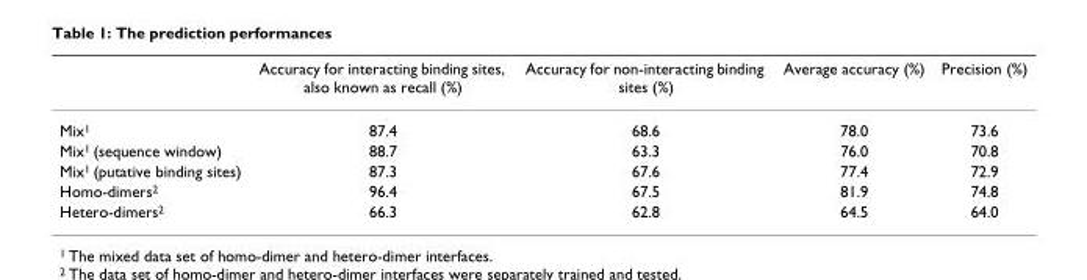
<table><thead><tr><td></td><td>Accuracy for interacting binding sites, also known as recall (%)</td><td>Accuracy for non-interacting binding sites (%)</td><td>Average accuracy (%)</td><td>Precision (%)</td></tr></thead><tbody><tr><td>Mix<sup>1</sup></td><td>87.4</td><td>68.6</td><td>78.0</td><td>73.6</td></tr><tr><td>Mix<sup>1</sup> (sequence window)</td><td>88.7</td><td>63.3</td><td>76.0</td><td>70.8</td></tr><tr><td>Mix<sup>1</sup> (putative binding sites)</td><td>87.3</td><td>67.6</td><td>77.4</td><td>72.9</td></tr><tr><td>Homo-dimers<sup>2</sup></td><td>96.4</td><td>67.5</td><td>81.9</td><td>74.8</td></tr><tr><td>Hetero-dimers<sup>2</sup></td><td>66.3</td><td>62.8</td><td>64.5</td><td>64.0</td></tr></tbody></table>